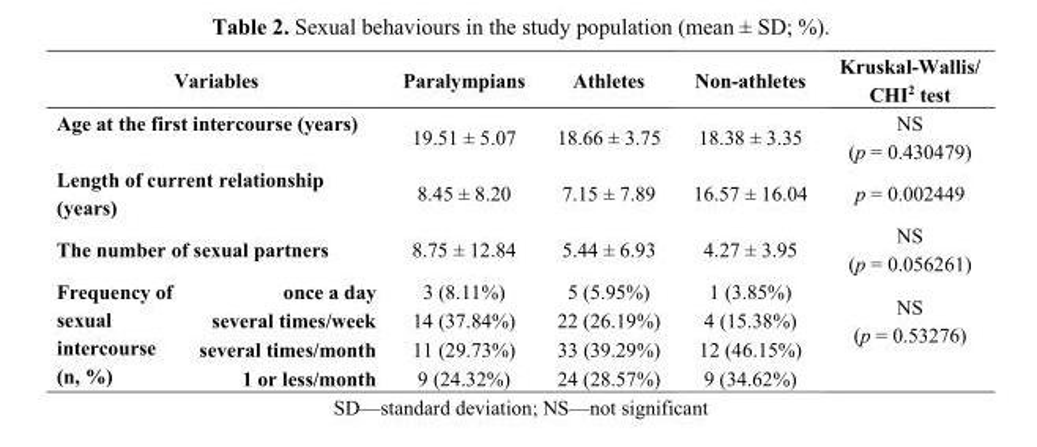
<table><thead><tr><td colspan="2">Variables</td><td>Paralympians</td><td>Athletes</td><td>Non-athletes</td><td>Kruskal-Wallis/ CHI<sup>2</sup> test</td></tr></thead><tbody><tr><td colspan="2">Age at the first intercourse (years)</td><td>19.51 ± 5.07</td><td>18.66 ± 3.75</td><td>18.38 ± 3.35</td><td>NS (p = 0.430479)</td></tr><tr><td colspan="2">Length of current relationship (years)</td><td>8.45 ± 8.20</td><td>7.15 ± 7.89</td><td>16.57 ± 16.04</td><td>p = 0.002449</td></tr><tr><td colspan="2">The number of sexual partners</td><td>8.75 ± 12.84</td><td>5.44 ± 6.93</td><td>4.27 ± 3.95</td><td>NS (p = 0.056261)</td></tr><tr><td rowspan="4">Frequency of sexual intercourse (n, %)</td><td>once a day</td><td>3 (8.11%)</td><td>5 (5.95%)</td><td>1 (3.85%)</td><td rowspan="4">NS (p = 0.53276)</td></tr><tr><td>several times/week</td><td>14 (37.84%)</td><td>22 (26.19%)</td><td>4 (15.38%)</td></tr><tr><td>several times/month</td><td>11 (29.73%)</td><td>33 (39.29%)</td><td>12 (46.15%)</td></tr><tr><td>1 or less/month</td><td>9 (24.32%)</td><td>24 (28.57%)</td><td>9 (34.62%)</td></tr></tbody></table>